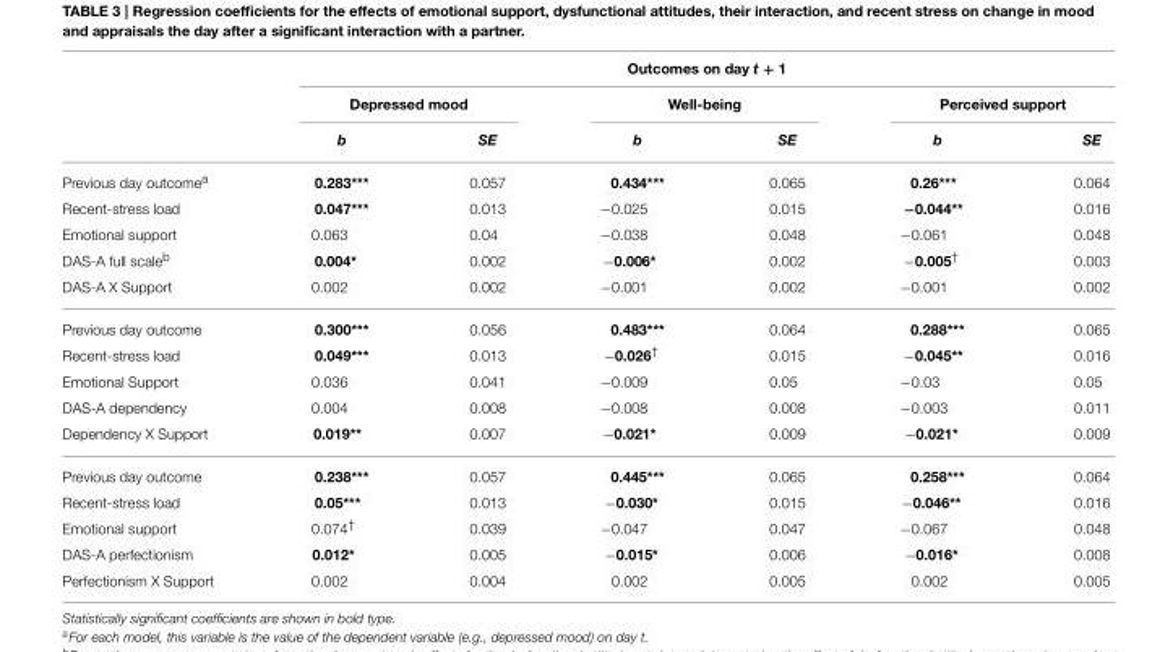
<table><thead><tr><td rowspan="3"></td><td colspan="6">Outcomes on day t + 1</td></tr><tr><td colspan="2">Depressed mood</td><td colspan="2">Well-being</td><td colspan="2">Perceived support</td></tr><tr><td>b</td><td>SE</td><td>b</td><td>SE</td><td>b</td><td>SE</td></tr></thead><tbody><tr><td>Previous day outcome<sup>a</sup></td><td>0.283***</td><td>0.057</td><td>0.434***</td><td>0.065</td><td>0.26***</td><td>0.064</td></tr><tr><td>Recent-stress load</td><td>0.047***</td><td>0.013</td><td>−0.025</td><td>0.015</td><td>−0.044**</td><td>0.016</td></tr><tr><td>Emotional support</td><td>0.063</td><td>0.04</td><td>−0.038</td><td>0.048</td><td>−0.061</td><td>0.048</td></tr><tr><td>DAS-A full scale<sup>b</sup></td><td>0.004*</td><td>0.002</td><td>−0.006*</td><td>0.002</td><td>−0.005<sup>†</sup></td><td>0.003</td></tr><tr><td>DAS-A X Support</td><td>0.002</td><td>0.002</td><td>−0.001</td><td>0.002</td><td>−0.001</td><td>0.002</td></tr><tr><td>Previous day outcome</td><td>0.300***</td><td>0.056</td><td>0.483***</td><td>0.064</td><td>0.288***</td><td>0.065</td></tr><tr><td>Recent-stress load</td><td>0.049***</td><td>0.013</td><td>−0.026<sup>†</sup></td><td>0.015</td><td>−0.045**</td><td>0.016</td></tr><tr><td>Emotional Support</td><td>0.036</td><td>0.041</td><td>−0.009</td><td>0.05</td><td>−0.03</td><td>0.05</td></tr><tr><td>DAS-A dependency</td><td>0.004</td><td>0.008</td><td>−0.008</td><td>0.008</td><td>−0.003</td><td>0.011</td></tr><tr><td>Dependency X Support</td><td>0.019**</td><td>0.007</td><td>−0.021*</td><td>0.009</td><td>−0.021*</td><td>0.009</td></tr><tr><td>Previous day outcome</td><td>0.238***</td><td>0.057</td><td>0.445***</td><td>0.065</td><td>0.258***</td><td>0.064</td></tr><tr><td>Recent-stress load</td><td>0.05***</td><td>0.013</td><td>−0.030*</td><td>0.015</td><td>−0.046**</td><td>0.016</td></tr><tr><td>Emotional support</td><td>0.074<sup>†</sup></td><td>0.039</td><td>−0.047</td><td>0.047</td><td>−0.067</td><td>0.048</td></tr><tr><td>DAS-A perfectionism</td><td>0.012*</td><td>0.005</td><td>−0.015*</td><td>0.006</td><td>−0.016*</td><td>0.008</td></tr><tr><td>Perfectionism X Support</td><td>0.002</td><td>0.004</td><td>0.002</td><td>0.005</td><td>0.002</td><td>0.005</td></tr></tbody></table>